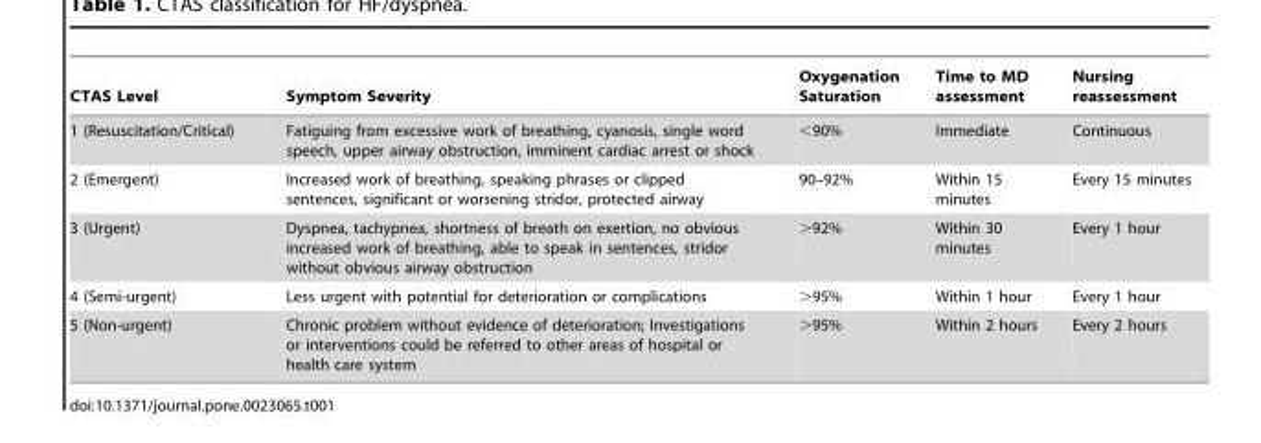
<table><thead><tr><td>CTAS Level</td><td>Symptom Severity</td><td>Oxygenation Saturation</td><td>Time to MD assessment</td><td>Nursing reassessment</td></tr></thead><tbody><tr><td>1 (Resuscitation/Critical)</td><td>Fatiguing from excessive work of breathing, cyanosis, single word speech, upper airway obstruction, imminent cardiac arrest or shock</td><td>&lt;90%</td><td>Immediate</td><td>Continuous</td></tr><tr><td>2 (Emergent)</td><td>Increased work of breathing, speaking phrases or clipped sentences, significant or worsening stridor, protected airway</td><td>90–92%</td><td>Within 15 minutes</td><td>Every 15 minutes</td></tr><tr><td>3 (Urgent)</td><td>Dyspnea, tachypnea, shortness of breath on exertion, no obvious increased work of breathing, able to speak in sentences, stridor without obvious airway obstruction</td><td>&gt;92%</td><td>Within 30 minutes</td><td>Every 1 hour</td></tr><tr><td>4 (Semi-urgent)</td><td>Less urgent with potential for deterioration or complications</td><td>&gt;95%</td><td>Within 1 hour</td><td>Every 1 hour</td></tr><tr><td>5 (Non-urgent)</td><td>Chronic problem without evidence of deterioration; Investigations or interventions could be referred to other areas of hospital or health care system</td><td>&gt;95%</td><td>Within 2 hours</td><td>Every 2 hours</td></tr></tbody></table>